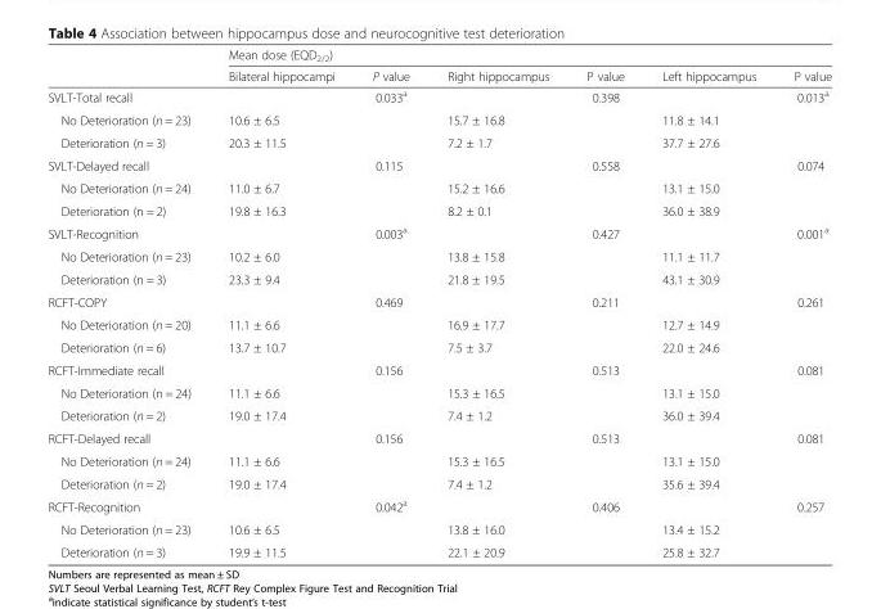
<table><thead><tr><td rowspan="2"></td><td colspan="6">Mean dose (EQD<sub>2/2</sub>)</td></tr><tr><td>Bilateral hippocampi</td><td>P value</td><td>Right hippocampus</td><td>P value</td><td>Left hippocampus</td><td>P value</td></tr></thead><tbody><tr><td>SVLT-Total recall</td><td></td><td>0.033<sup>a</sup></td><td></td><td>0.398</td><td></td><td>0.013<sup>a</sup></td></tr><tr><td>No Deterioration (n = 23)</td><td>10.6 ± 6.5</td><td></td><td>15.7 ± 16.8</td><td></td><td>11.8 ± 14.1</td><td></td></tr><tr><td>Deterioration (n = 3)</td><td>20.3 ± 11.5</td><td></td><td>7.2 ± 1.7</td><td></td><td>37.7 ± 27.6</td><td></td></tr><tr><td>SVLT-Delayed recall</td><td></td><td>0.115</td><td></td><td>0.558</td><td></td><td>0.074</td></tr><tr><td>No Deterioration (n = 24)</td><td>11.0 ± 6.7</td><td></td><td>15.2 ± 16.6</td><td></td><td>13.1 ± 15.0</td><td></td></tr><tr><td>Deterioration (n = 2)</td><td>19.8 ± 16.3</td><td></td><td>8.2 ± 0.1</td><td></td><td>36.0 ± 38.9</td><td></td></tr><tr><td>SVLT-Recognition</td><td></td><td>0.003<sup>a</sup></td><td></td><td>0.427</td><td></td><td>0.001<sup>a</sup></td></tr><tr><td>No Deterioration (n = 23)</td><td>10.2 ± 6.0</td><td></td><td>13.8 ± 15.8</td><td></td><td>11.1 ± 11.7</td><td></td></tr><tr><td>Deterioration (n = 3)</td><td>23.3 ± 9.4</td><td></td><td>21.8 ± 19.5</td><td></td><td>43.1 ± 30.9</td><td></td></tr><tr><td>RCFT-COPY</td><td></td><td>0.469</td><td></td><td>0.211</td><td></td><td>0.261</td></tr><tr><td>No Deterioration (n = 20)</td><td>11.1 ± 6.6</td><td></td><td>16.9 ± 17.7</td><td></td><td>12.7 ± 14.9</td><td></td></tr><tr><td>Deterioration (n = 6)</td><td>13.7 ± 10.7</td><td></td><td>7.5 ± 3.7</td><td></td><td>22.0 ± 24.6</td><td></td></tr><tr><td>RCFT-Immediate recall</td><td></td><td>0.156</td><td></td><td>0.513</td><td></td><td>0.081</td></tr><tr><td>No Deterioration (n = 24)</td><td>11.1 ± 6.6</td><td></td><td>15.3 ± 16.5</td><td></td><td>13.1 ± 15.0</td><td></td></tr><tr><td>Deterioration (n = 2)</td><td>19.0 ± 17.4</td><td></td><td>7.4 ± 1.2</td><td></td><td>36.0 ± 39.4</td><td></td></tr><tr><td>RCFT-Delayed recall</td><td></td><td>0.156</td><td></td><td>0.513</td><td></td><td>0.081</td></tr><tr><td>No Deterioration (n = 24)</td><td>11.1 ± 6.6</td><td></td><td>15.3 ± 16.5</td><td></td><td>13.1 ± 15.0</td><td></td></tr><tr><td>Deterioration (n = 2)</td><td>19.0 ± 17.4</td><td></td><td>7.4 ± 1.2</td><td></td><td>35.6 ± 39.4</td><td></td></tr><tr><td>RCFT-Recognition</td><td></td><td>0.042<sup>a</sup></td><td></td><td>0.406</td><td></td><td>0.257</td></tr><tr><td>No Deterioration (n = 23)</td><td>10.6 ± 6.5</td><td></td><td>13.8 ± 16.0</td><td></td><td>13.4 ± 15.2</td><td></td></tr><tr><td>Deterioration (n = 3)</td><td>19.9 ± 11.5</td><td></td><td>22.1 ± 20.9</td><td></td><td>25.8 ± 32.7</td><td></td></tr></tbody></table>